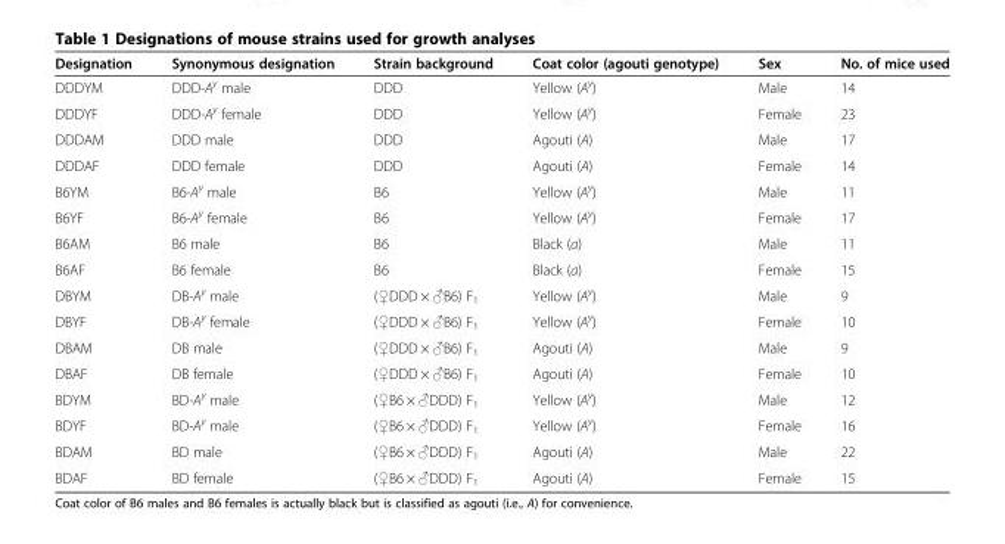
<table><thead><tr><td>Designation</td><td>Synonymous designation</td><td>Strain background</td><td>Coat color (agouti genotype)</td><td>Sex</td><td>No. of mice used</td></tr></thead><tbody><tr><td>DDDYM</td><td>DDD-A<sup>y</sup> male</td><td>DDD</td><td>Yellow (A<sup>y</sup>)</td><td>Male</td><td>14</td></tr><tr><td>DDDYF</td><td>DDD-A<sup>y</sup> female</td><td>DDD</td><td>Yellow (A<sup>y</sup>)</td><td>Female</td><td>23</td></tr><tr><td>DDDAM</td><td>DDD male</td><td>DDD</td><td>Agouti (A)</td><td>Male</td><td>17</td></tr><tr><td>DDDAF</td><td>DDD female</td><td>DDD</td><td>Agouti (A)</td><td>Female</td><td>14</td></tr><tr><td>B6YM</td><td>B6-A<sup>y</sup> male</td><td>B6</td><td>Yellow (A<sup>y</sup>)</td><td>Male</td><td>11</td></tr><tr><td>B6YF</td><td>B6-A<sup>y</sup> female</td><td>B6</td><td>Yellow (A<sup>y</sup>)</td><td>Female</td><td>17</td></tr><tr><td>B6AM</td><td>B6 male</td><td>B6</td><td>Black (a)</td><td>Male</td><td>11</td></tr><tr><td>B6AF</td><td>B6 female</td><td>B6</td><td>Black (a)</td><td>Female</td><td>15</td></tr><tr><td>DBYM</td><td>DB-A<sup>y</sup> male</td><td>(♀DDD × ♂B6) F<sub>1</sub></td><td>Yellow (A<sup>y</sup>)</td><td>Male</td><td>9</td></tr><tr><td>DBYF</td><td>DB-A<sup>y</sup> female</td><td>(♀DDD × ♂B6) F<sub>1</sub></td><td>Yellow (A<sup>y</sup>)</td><td>Female</td><td>10</td></tr><tr><td>DBAM</td><td>DB male</td><td>(♀DDD × ♂B6) F<sub>1</sub></td><td>Agouti (A)</td><td>Male</td><td>9</td></tr><tr><td>DBAF</td><td>DB female</td><td>(♀DDD × ♂B6) F<sub>1</sub></td><td>Agouti (A)</td><td>Female</td><td>10</td></tr><tr><td>BDYM</td><td>BD-A<sup>y</sup> male</td><td>(♀B6 × ♂DDD) F<sub>1</sub></td><td>Yellow (A<sup>y</sup>)</td><td>Male</td><td>12</td></tr><tr><td>BDYF</td><td>BD-A<sup>y</sup> male</td><td>(♀B6 × ♂DDD) F<sub>1</sub></td><td>Yellow (A<sup>y</sup>)</td><td>Female</td><td>16</td></tr><tr><td>BDAM</td><td>BD male</td><td>(♀B6 × ♂DDD) F<sub>1</sub></td><td>Agouti (A)</td><td>Male</td><td>22</td></tr><tr><td>BDAF</td><td>BD female</td><td>(♀B6 × ♂DDD) F<sub>1</sub></td><td>Agouti (A)</td><td>Female</td><td>15</td></tr></tbody></table>